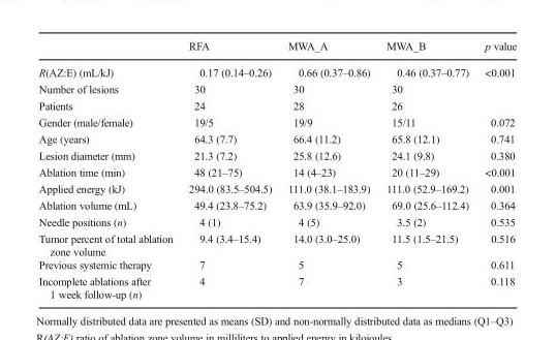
<table><thead><tr><td></td><td>RFA</td><td>MWA_A</td><td>MWA_B</td><td>p value</td></tr></thead><tbody><tr><td>R(AZ:E) (mL/kJ)</td><td>0.17 (0.14–0.26)</td><td>0.66 (0.37–0.86)</td><td>0.46 (0.37–0.77)</td><td>&lt;0.001</td></tr><tr><td>Number of lesions</td><td>30</td><td>30</td><td>30</td><td></td></tr><tr><td>Patients</td><td>24</td><td>28</td><td>26</td><td></td></tr><tr><td>Gender (male/female)</td><td>19/5</td><td>19/9</td><td>15/11</td><td>0.072</td></tr><tr><td>Age (years)</td><td>64.3 (7.7)</td><td>66.4 (11.2)</td><td>65.8 (12.1)</td><td>0.741</td></tr><tr><td>Lesion diameter (mm)</td><td>21.3 (7.2)</td><td>25.8 (12.6)</td><td>24.1 (9.8)</td><td>0.380</td></tr><tr><td>Ablation time (min)</td><td>48 (21–75)</td><td>14 (4–23)</td><td>20 (11–29)</td><td>&lt;0.001</td></tr><tr><td>Applied energy (kJ)</td><td>294.0 (83.5–504.5)</td><td>111.0 (38.1–183.9)</td><td>111.0 (52.9–169.2)</td><td>0.001</td></tr><tr><td>Ablation volume (mL)</td><td>49.4 (23.8–75.2)</td><td>63.9 (35.9–92.0)</td><td>69.0 (25.6–112.4)</td><td>0.364</td></tr><tr><td>Needle positions (n)</td><td>4 (1)</td><td>4 (5)</td><td>3.5 (2)</td><td>0.535</td></tr><tr><td>Tumor percent of total ablation zone volume</td><td>9.4 (3.4–15.4)</td><td>14.0 (3.0–25.0)</td><td>11.5 (1.5–21.5)</td><td>0.516</td></tr><tr><td>Previous systemic therapy</td><td>7</td><td>5</td><td>5</td><td>0.611</td></tr><tr><td>Incomplete ablations after 1 week follow-up (n)</td><td>4</td><td>7</td><td>3</td><td>0.118</td></tr></tbody></table>